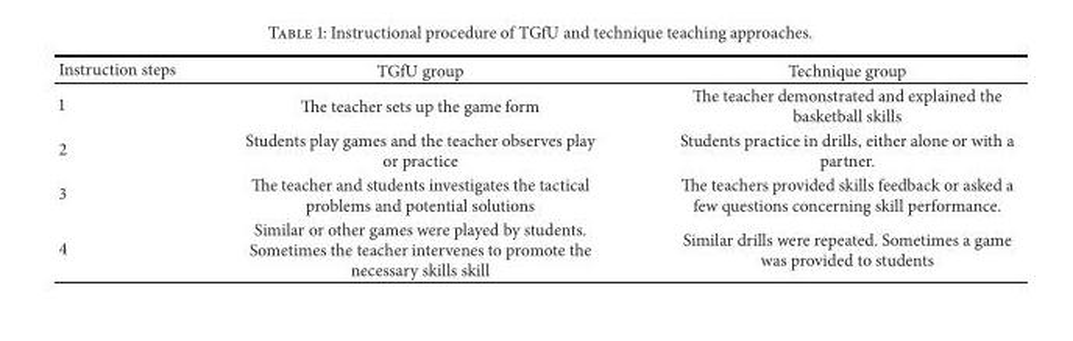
<table><thead><tr><td>Instruction steps</td><td>TGfU group</td><td>Technique group</td></tr></thead><tbody><tr><td>1</td><td>The teacher sets up the game form</td><td>The teacher demonstrated and explained the basketball skills</td></tr><tr><td>2</td><td>Students play games and the teacher observes play or practice</td><td>Students practice in drills, either alone or with a partner.</td></tr><tr><td>3</td><td>The teacher and students investigates the tactical problems and potential solutions</td><td>The teachers provided skills feedback or asked a few questions concerning skill performance.</td></tr><tr><td>4</td><td>Similar or other games were played by students. Sometimes the teacher intervenes to promote the necessary skills skill</td><td>Similar drills were repeated. Sometimes a game was provided to students</td></tr></tbody></table>